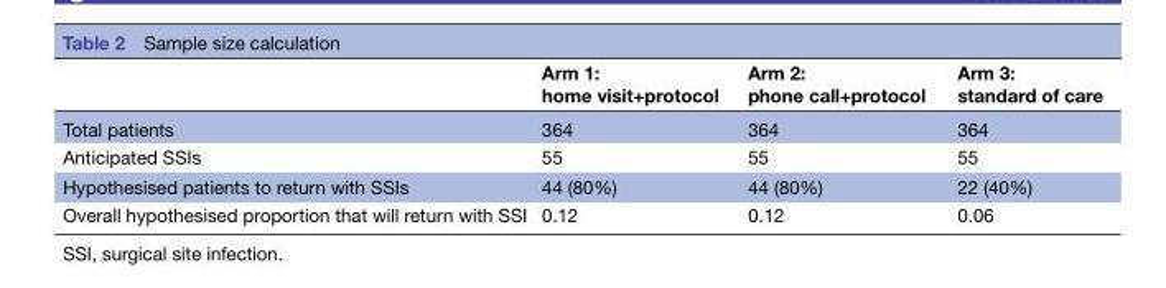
<table><thead><tr><td></td><td>Arm 1: home visit+protocol</td><td>Arm 2: phone call+protocol</td><td>Arm 3: standard of care</td></tr></thead><tbody><tr><td>Total patients</td><td>364</td><td>364</td><td>364</td></tr><tr><td>Anticipated SSIs</td><td>55</td><td>55</td><td>55</td></tr><tr><td>Hypothesised patients to return with SSIs</td><td>44 (80%)</td><td>44 (80%)</td><td>22 (40%)</td></tr><tr><td>Overall hypothesised proportion that will return with SSI</td><td>0.12</td><td>0.12</td><td>0.06</td></tr></tbody></table>